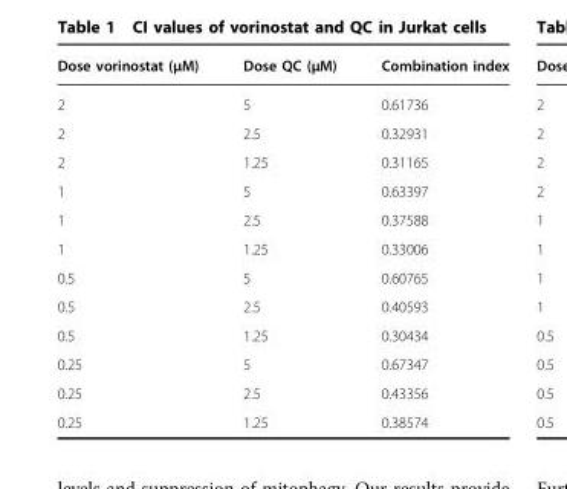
<table><thead><tr><td>Dose vorinostat (μM)</td><td>Dose QC (μM)</td><td>Combination index</td></tr></thead><tbody><tr><td>2</td><td>5</td><td>0.61736</td></tr><tr><td>2</td><td>2.5</td><td>0.32931</td></tr><tr><td>2</td><td>1.25</td><td>0.31165</td></tr><tr><td>1</td><td>5</td><td>0.63397</td></tr><tr><td>1</td><td>2.5</td><td>0.37588</td></tr><tr><td>1</td><td>1.25</td><td>0.33006</td></tr><tr><td>0.5</td><td>5</td><td>0.60765</td></tr><tr><td>0.5</td><td>2.5</td><td>0.40593</td></tr><tr><td>0.5</td><td>1.25</td><td>0.30434</td></tr><tr><td>0.25</td><td>5</td><td>0.67347</td></tr><tr><td>0.25</td><td>2.5</td><td>0.43356</td></tr><tr><td>0.25</td><td>1.25</td><td>0.38574</td></tr></tbody></table>